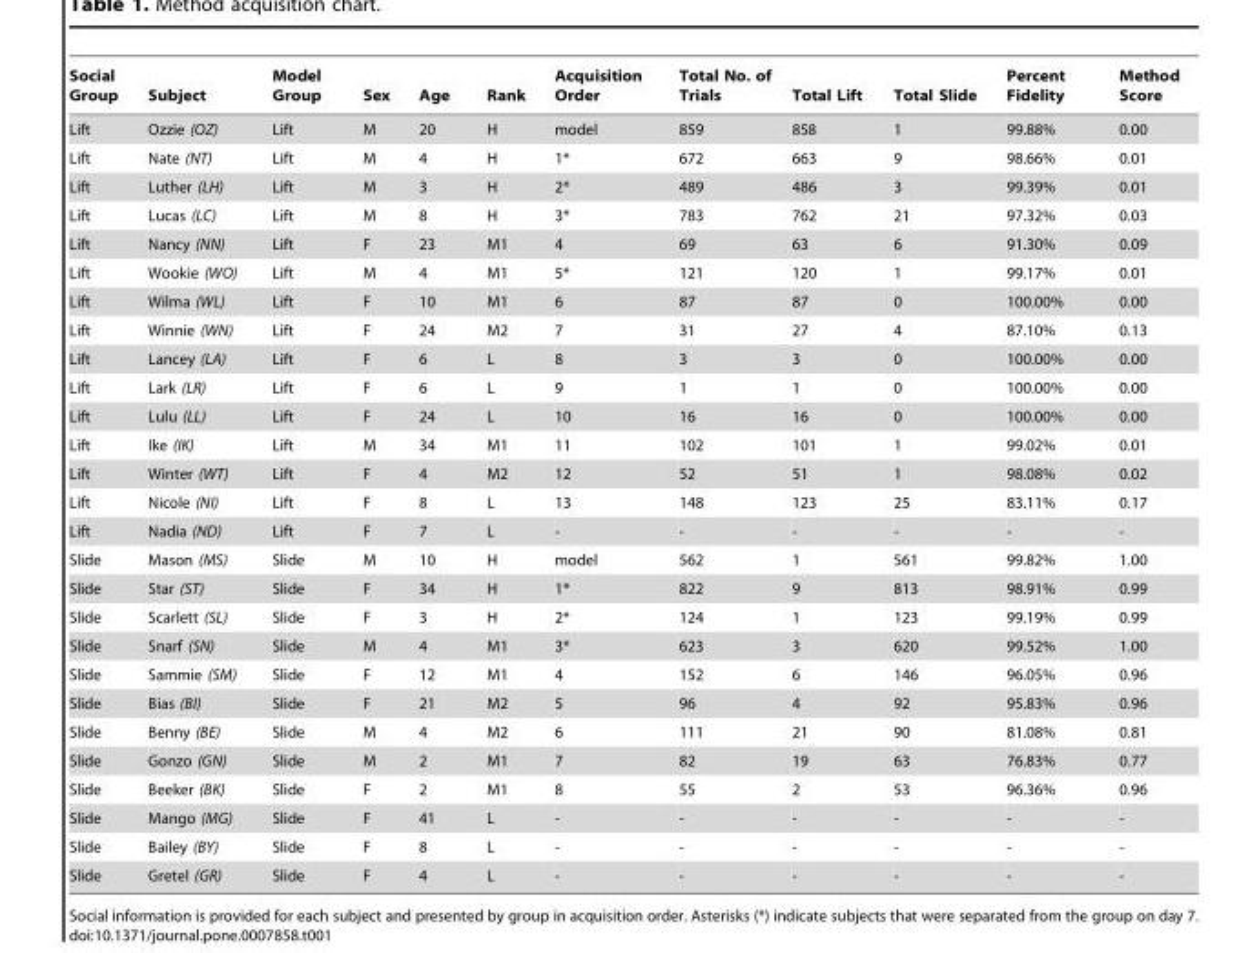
<table><thead><tr><td>Social Group</td><td>Subject</td><td>Model Group</td><td>Sex</td><td>Age</td><td>Rank</td><td>Acquisition Order</td><td>Total No. of Trials</td><td>Total Lift</td><td>Total Slide</td><td>Percent Fidelity</td><td>Method Score</td></tr></thead><tbody><tr><td>Lift</td><td>Ozzie (OZ)</td><td>Lift</td><td>M</td><td>20</td><td>H</td><td>model</td><td>859</td><td>858</td><td>1</td><td>99.88%</td><td>0.00</td></tr><tr><td>Lift</td><td>Nate (NT)</td><td>Lift</td><td>M</td><td>4</td><td>H</td><td>1*</td><td>672</td><td>663</td><td>9</td><td>98.66%</td><td>0.01</td></tr><tr><td>Lift</td><td>Luther (LH)</td><td>Lift</td><td>M</td><td>3</td><td>H</td><td>2*</td><td>489</td><td>486</td><td>3</td><td>99.39%</td><td>0.01</td></tr><tr><td>Lift</td><td>Lucas (LC)</td><td>Lift</td><td>M</td><td>8</td><td>H</td><td>3*</td><td>783</td><td>762</td><td>21</td><td>97.32%</td><td>0.03</td></tr><tr><td>Lift</td><td>Nancy (NN)</td><td>Lift</td><td>F</td><td>23</td><td>M1</td><td>4</td><td>69</td><td>63</td><td>6</td><td>91.30%</td><td>0.09</td></tr><tr><td>Lift</td><td>Wookie (WO)</td><td>Lift</td><td>M</td><td>4</td><td>M1</td><td>5*</td><td>121</td><td>120</td><td>1</td><td>99.17%</td><td>0.01</td></tr><tr><td>Lift</td><td>Wilma (WL)</td><td>Lift</td><td>F</td><td>10</td><td>M1</td><td>6</td><td>87</td><td>87</td><td>0</td><td>100.00%</td><td>0.00</td></tr><tr><td>Lift</td><td>Winnie (WN)</td><td>Lift</td><td>F</td><td>24</td><td>M2</td><td>7</td><td>31</td><td>27</td><td>4</td><td>87.10%</td><td>0.13</td></tr><tr><td>Lift</td><td>Lancey (LA)</td><td>Lift</td><td>F</td><td>6</td><td>L</td><td>8</td><td>3</td><td>3</td><td>0</td><td>100.00%</td><td>0.00</td></tr><tr><td>Lift</td><td>Lark (LR)</td><td>Lift</td><td>F</td><td>6</td><td>L</td><td>9</td><td>1</td><td>1</td><td>0</td><td>100.00%</td><td>0.00</td></tr><tr><td>Lift</td><td>Lulu (LL)</td><td>Lift</td><td>F</td><td>24</td><td>L</td><td>10</td><td>16</td><td>16</td><td>0</td><td>100.00%</td><td>0.00</td></tr><tr><td>Lift</td><td>Ike (IK)</td><td>Lift</td><td>M</td><td>34</td><td>M1</td><td>11</td><td>102</td><td>101</td><td>1</td><td>99.02%</td><td>0.01</td></tr><tr><td>Lift</td><td>Winter (WT)</td><td>Lift</td><td>F</td><td>4</td><td>M2</td><td>12</td><td>52</td><td>51</td><td>1</td><td>98.08%</td><td>0.02</td></tr><tr><td>Lift</td><td>Nicole (NI)</td><td>Lift</td><td>F</td><td>8</td><td>L</td><td>13</td><td>148</td><td>123</td><td>25</td><td>83.11%</td><td>0.17</td></tr><tr><td>Lift</td><td>Nadia (ND)</td><td>Lift</td><td>F</td><td>7</td><td>L</td><td>-</td><td>-</td><td>-</td><td>-</td><td>-</td><td>-</td></tr><tr><td>Slide</td><td>Mason (MS)</td><td>Slide</td><td>M</td><td>10</td><td>H</td><td>model</td><td>562</td><td>1</td><td>561</td><td>99.82%</td><td>1.00</td></tr><tr><td>Slide</td><td>Star (ST)</td><td>Slide</td><td>F</td><td>34</td><td>H</td><td>1*</td><td>822</td><td>9</td><td>813</td><td>98.91%</td><td>0.99</td></tr><tr><td>Slide</td><td>Scarlett (SL)</td><td>Slide</td><td>F</td><td>3</td><td>H</td><td>2*</td><td>124</td><td>1</td><td>123</td><td>99.19%</td><td>0.99</td></tr><tr><td>Slide</td><td>Snarf (SN)</td><td>Slide</td><td>M</td><td>4</td><td>M1</td><td>3*</td><td>623</td><td>3</td><td>620</td><td>99.52%</td><td>1.00</td></tr><tr><td>Slide</td><td>Sammie (SM)</td><td>Slide</td><td>F</td><td>12</td><td>M1</td><td>4</td><td>152</td><td>6</td><td>146</td><td>96.05%</td><td>0.96</td></tr><tr><td>Slide</td><td>Bias (BI)</td><td>Slide</td><td>F</td><td>21</td><td>M2</td><td>5</td><td>96</td><td>4</td><td>92</td><td>95.83%</td><td>0.96</td></tr><tr><td>Slide</td><td>Benny (BE)</td><td>Slide</td><td>M</td><td>4</td><td>M2</td><td>6</td><td>111</td><td>21</td><td>90</td><td>81.08%</td><td>0.81</td></tr><tr><td>Slide</td><td>Gonzo (GN)</td><td>Slide</td><td>M</td><td>2</td><td>M1</td><td>7</td><td>82</td><td>19</td><td>63</td><td>76.83%</td><td>0.77</td></tr><tr><td>Slide</td><td>Beeker (BK)</td><td>Slide</td><td>F</td><td>2</td><td>M1</td><td>8</td><td>55</td><td>2</td><td>53</td><td>96.36%</td><td>0.96</td></tr><tr><td>Slide</td><td>Mango (MG)</td><td>Slide</td><td>F</td><td>41</td><td>L</td><td>-</td><td>-</td><td>-</td><td>-</td><td>-</td><td>-</td></tr><tr><td>Slide</td><td>Bailey (BY)</td><td>Slide</td><td>F</td><td>8</td><td>L</td><td>-</td><td>-</td><td>-</td><td>-</td><td>-</td><td>-</td></tr><tr><td>Slide</td><td>Gretel (GR)</td><td>Slide</td><td>F</td><td>4</td><td>L</td><td>-</td><td>-</td><td>-</td><td>-</td><td>-</td><td>-</td></tr></tbody></table>